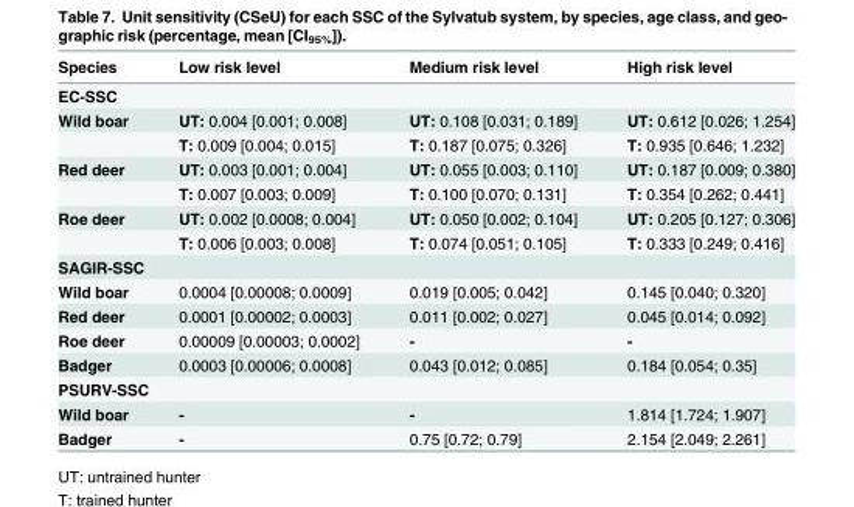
<table><thead><tr><td>Species</td><td>Low risk level</td><td>Medium risk level</td><td>High risk level</td></tr></thead><tbody><tr><td colspan="4">EC-SSC</td></tr><tr><td rowspan="2">Wild boar</td><td>UT: 0.004 [0.001; 0.008]</td><td>UT: 0.108 [0.031; 0.189]</td><td>UT: 0.612 [0.026; 1.254]</td></tr><tr><td>T: 0.009 [0.004; 0.015]</td><td>T: 0.187 [0.075; 0.326]</td><td>T: 0.935 [0.646; 1.232]</td></tr><tr><td rowspan="2">Red deer</td><td>UT: 0.003 [0.001; 0.004]</td><td>UT: 0.055 [0.003; 0.110]</td><td>UT: 0.187 [0.009; 0.380]</td></tr><tr><td>T: 0.007 [0.003; 0.009]</td><td>T: 0.100 [0.070; 0.131]</td><td>T: 0.354 [0.262; 0.441]</td></tr><tr><td rowspan="2">Roe deer</td><td>UT: 0.002 [0.0008; 0.004]</td><td>UT: 0.050 [0.002; 0.104]</td><td>UT: 0.205 [0.127; 0.306]</td></tr><tr><td>T: 0.006 [0.003; 0.008]</td><td>T: 0.074 [0.051; 0.105]</td><td>T: 0.333 [0.249; 0.416]</td></tr><tr><td colspan="4">SAGIR-SSC</td></tr><tr><td>Wild boar</td><td>0.0004 [0.00008; 0.0009]</td><td>0.019 [0.005; 0.042]</td><td>0.145 [0.040; 0.320]</td></tr><tr><td>Red deer</td><td>0.0001 [0.00002; 0.0003]</td><td>0.011 [0.002; 0.027]</td><td>0.045 [0.014; 0.092]</td></tr><tr><td>Roe deer</td><td>0.00009 [0.00003; 0.0002]</td><td>-</td><td>-</td></tr><tr><td>Badger</td><td>0.0003 [0.00006; 0.0008]</td><td>0.043 [0.012; 0.085]</td><td>0.184 [0.054; 0.35]</td></tr><tr><td colspan="4">PSURV-SSC</td></tr><tr><td>Wild boar</td><td>-</td><td>-</td><td>1.814 [1.724; 1.907]</td></tr><tr><td>Badger</td><td>-</td><td>0.75 [0.72; 0.79]</td><td>2.154 [2.049; 2.261]</td></tr></tbody></table>